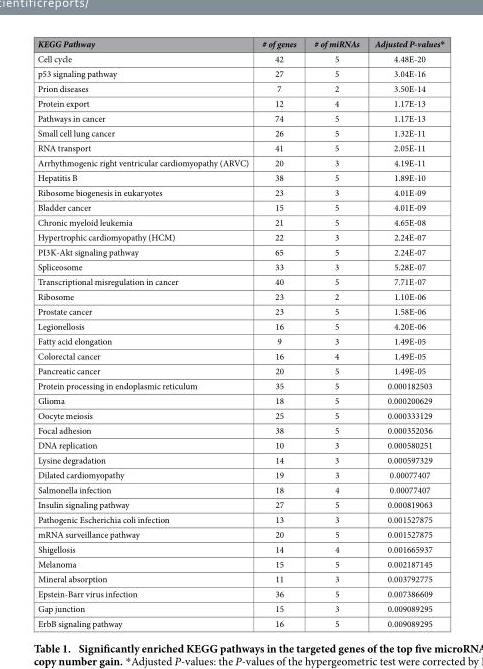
<table><thead><tr><td>KEGG Pathway</td><td># of genes</td><td># of miRNAs</td><td>Adjusted P-values*</td></tr></thead><tbody><tr><td>Cell cycle</td><td>42</td><td>5</td><td>4.48E-20</td></tr><tr><td>p53 signaling pathway</td><td>27</td><td>5</td><td>3.04E-16</td></tr><tr><td>Prion diseases</td><td>7</td><td>2</td><td>3.50E-14</td></tr><tr><td>Protein export</td><td>12</td><td>4</td><td>1.17E-13</td></tr><tr><td>Pathways in cancer</td><td>74</td><td>5</td><td>1.17E-13</td></tr><tr><td>Small cell lung cancer</td><td>26</td><td>5</td><td>1.32E-11</td></tr><tr><td>RNA transport</td><td>41</td><td>5</td><td>2.05E-11</td></tr><tr><td>Arrhythmogenic right ventricular cardiomyopathy (ARVC)</td><td>20</td><td>3</td><td>4.19E-11</td></tr><tr><td>Hepatitis B</td><td>38</td><td>5</td><td>1.89E-10</td></tr><tr><td>Ribosome biogenesis in eukaryotes</td><td>23</td><td>3</td><td>4.01E-09</td></tr><tr><td>Bladder cancer</td><td>15</td><td>5</td><td>4.01E-09</td></tr><tr><td>Chronic myeloid leukemia</td><td>21</td><td>5</td><td>4.65E-08</td></tr><tr><td>Hypertrophic cardiomyopathy (HCM)</td><td>22</td><td>3</td><td>2.24E-07</td></tr><tr><td>PI3K-Akt signaling pathway</td><td>65</td><td>5</td><td>2.24E-07</td></tr><tr><td>Spliceosome</td><td>33</td><td>3</td><td>5.28E-07</td></tr><tr><td>Transcriptional misregulation in cancer</td><td>40</td><td>5</td><td>7.71E-07</td></tr><tr><td>Ribosome</td><td>23</td><td>2</td><td>1.10E-06</td></tr><tr><td>Prostate cancer</td><td>23</td><td>5</td><td>1.58E-06</td></tr><tr><td>Legionellosis</td><td>16</td><td>5</td><td>4.20E-06</td></tr><tr><td>Fatty acid elongation</td><td>9</td><td>3</td><td>1.49E-05</td></tr><tr><td>Colorectal cancer</td><td>16</td><td>4</td><td>1.49E-05</td></tr><tr><td>Pancreatic cancer</td><td>20</td><td>5</td><td>1.49E-05</td></tr><tr><td>Protein processing in endoplasmic reticulum</td><td>35</td><td>5</td><td>0.000182503</td></tr><tr><td>Glioma</td><td>18</td><td>5</td><td>0.000200629</td></tr><tr><td>Oocyte meiosis</td><td>25</td><td>5</td><td>0.000333129</td></tr><tr><td>Focal adhesion</td><td>38</td><td>5</td><td>0.000352036</td></tr><tr><td>DNA replication</td><td>10</td><td>3</td><td>0.000580251</td></tr><tr><td>Lysine degradation</td><td>14</td><td>3</td><td>0.000597329</td></tr><tr><td>Dilated cardiomyopathy</td><td>19</td><td>3</td><td>0.00077407</td></tr><tr><td>Salmonella infection</td><td>18</td><td>4</td><td>0.00077407</td></tr><tr><td>Insulin signaling pathway</td><td>27</td><td>5</td><td>0.000819063</td></tr><tr><td>Pathogenic Escherichia coli infection</td><td>13</td><td>3</td><td>0.001527875</td></tr><tr><td>mRNA surveillance pathway</td><td>20</td><td>5</td><td>0.001527875</td></tr><tr><td>Shigellosis</td><td>14</td><td>4</td><td>0.001665937</td></tr><tr><td>Melanoma</td><td>15</td><td>5</td><td>0.002187145</td></tr><tr><td>Mineral absorption</td><td>11</td><td>3</td><td>0.003792775</td></tr><tr><td>Epstein-Barr virus infection</td><td>36</td><td>5</td><td>0.007386609</td></tr><tr><td>Gap junction</td><td>15</td><td>3</td><td>0.009089295</td></tr><tr><td>ErbB signaling pathway</td><td>16</td><td>5</td><td>0.009089295</td></tr></tbody></table>